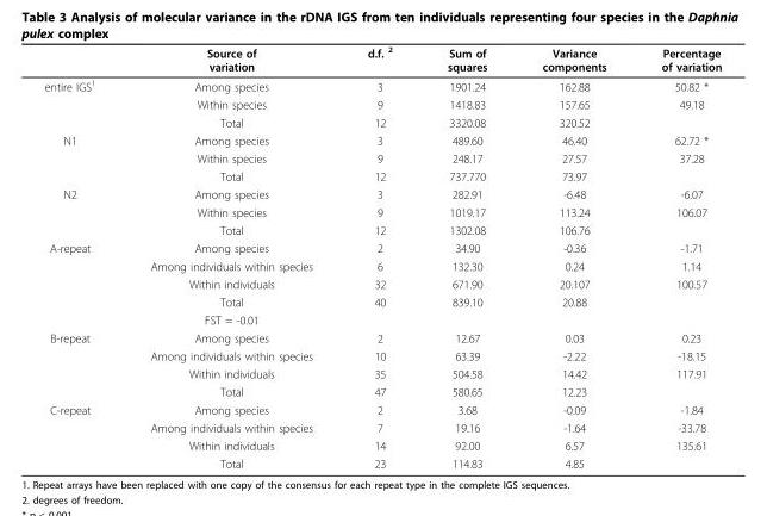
<table><thead><tr><td></td><td>Source of variation</td><td>d.f. <sup>2</sup></td><td>Sum of squares</td><td>Variance components</td><td>Percentage of variation</td></tr></thead><tbody><tr><td rowspan="3">entire IGS<sup>1</sup></td><td>Among species</td><td>3</td><td>1901.24</td><td>162.88</td><td>50.82 *</td></tr><tr><td>Within species</td><td>9</td><td>1418.83</td><td>157.65</td><td>49.18</td></tr><tr><td>Total</td><td>12</td><td>3320.08</td><td>320.52</td><td></td></tr><tr><td rowspan="3">N1</td><td>Among species</td><td>3</td><td>489.60</td><td>46.40</td><td>62.72 *</td></tr><tr><td>Within species</td><td>9</td><td>248.17</td><td>27.57</td><td>37.28</td></tr><tr><td>Total</td><td>12</td><td>737.770</td><td>73.97</td><td></td></tr><tr><td rowspan="3">N2</td><td>Among species</td><td>3</td><td>282.91</td><td>-6.48</td><td>-6.07</td></tr><tr><td>Within species</td><td>9</td><td>1019.17</td><td>113.24</td><td>106.07</td></tr><tr><td>Total</td><td>12</td><td>1302.08</td><td>106.76</td><td></td></tr><tr><td rowspan="5">A-repeat</td><td>Among species</td><td>2</td><td>34.90</td><td>-0.36</td><td>-1.71</td></tr><tr><td>Among individuals within species</td><td>6</td><td>132.30</td><td>0.24</td><td>1.14</td></tr><tr><td>Within individuals</td><td>32</td><td>671.90</td><td>20.107</td><td>100.57</td></tr><tr><td>Total</td><td>40</td><td>839.10</td><td>20.88</td><td></td></tr><tr><td>FST = -0.01</td><td></td><td></td><td></td><td></td></tr><tr><td rowspan="4">B-repeat</td><td>Among species</td><td>2</td><td>12.67</td><td>0.03</td><td>0.23</td></tr><tr><td>Among individuals within species</td><td>10</td><td>63.39</td><td>-2.22</td><td>-18.15</td></tr><tr><td>Within individuals</td><td>35</td><td>504.58</td><td>14.42</td><td>117.91</td></tr><tr><td>Total</td><td>47</td><td>580.65</td><td>12.23</td><td></td></tr><tr><td rowspan="4">C-repeat</td><td>Among species</td><td>2</td><td>3.68</td><td>-0.09</td><td>-1.84</td></tr><tr><td>Among individuals within species</td><td>7</td><td>19.16</td><td>-1.64</td><td>-33.78</td></tr><tr><td>Within individuals</td><td>14</td><td>92.00</td><td>6.57</td><td>135.61</td></tr><tr><td>Total</td><td>23</td><td>114.83</td><td>4.85</td><td></td></tr></tbody></table>